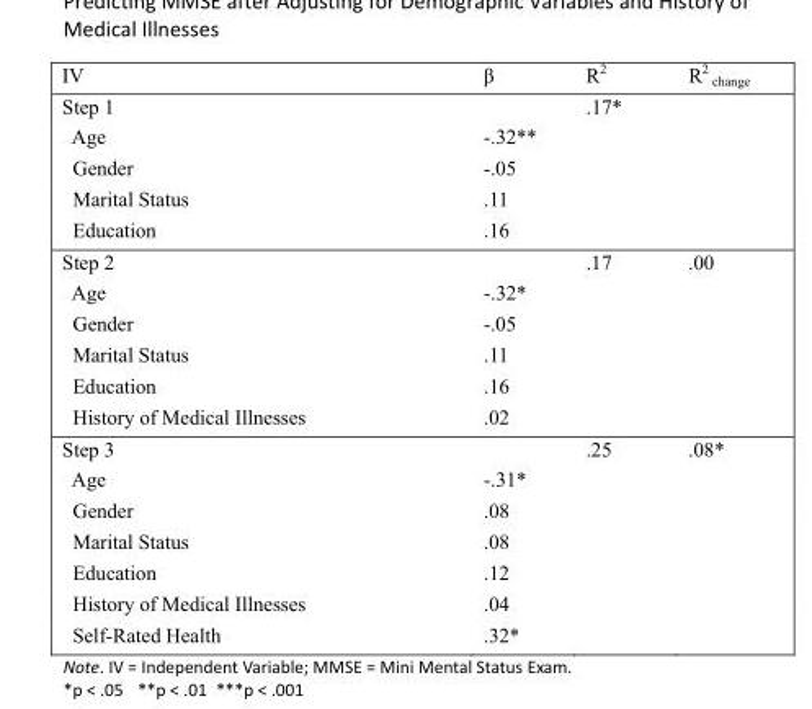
<table><thead><tr><td>IV</td><td>β</td><td>R<sup>2</sup></td><td>R<sup>2</sup> <sub>change</sub></td></tr></thead><tbody><tr><td>Step 1</td><td></td><td>.17*</td><td></td></tr><tr><td>Age</td><td>-.32**</td><td></td><td></td></tr><tr><td>Gender</td><td>-.05</td><td></td><td></td></tr><tr><td>Marital Status</td><td>.11</td><td></td><td></td></tr><tr><td>Education</td><td>.16</td><td></td><td></td></tr><tr><td>Step 2</td><td></td><td>.17</td><td>.00</td></tr><tr><td>Age</td><td>-.32*</td><td></td><td></td></tr><tr><td>Gender</td><td>-.05</td><td></td><td></td></tr><tr><td>Marital Status</td><td>.11</td><td></td><td></td></tr><tr><td>Education</td><td>.16</td><td></td><td></td></tr><tr><td>History of Medical Illnesses</td><td>.02</td><td></td><td></td></tr><tr><td>Step 3</td><td></td><td>.25</td><td>.08*</td></tr><tr><td>Age</td><td>-.31*</td><td></td><td></td></tr><tr><td>Gender</td><td>.08</td><td></td><td></td></tr><tr><td>Marital Status</td><td>.08</td><td></td><td></td></tr><tr><td>Education</td><td>.12</td><td></td><td></td></tr><tr><td>History of Medical Illnesses</td><td>.04</td><td></td><td></td></tr><tr><td>Self-Rated Health</td><td>.32*</td><td></td><td></td></tr></tbody></table>